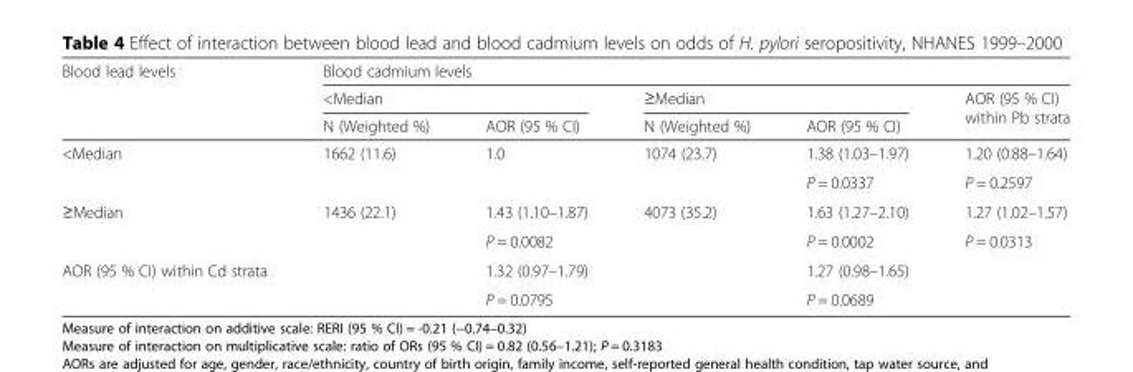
<table><thead><tr><td rowspan="3">Blood lead levels</td><td colspan="5">Blood cadmium levels</td></tr><tr><td colspan="2">&lt;Median</td><td colspan="2">≥Median</td><td rowspan="2">AOR (95 % CI) within Pb strata</td></tr><tr><td>N (Weighted %)</td><td>AOR (95 % CI)</td><td>N (Weighted %)</td><td>AOR (95 % CI)</td></tr></thead><tbody><tr><td rowspan="2">&lt;Median</td><td rowspan="2">1662 (11.6)</td><td rowspan="2">1.0</td><td rowspan="2">1074 (23.7)</td><td>1.38 (1.03–1.97)</td><td>1.20 (0.88–1.64)</td></tr><tr><td>P = 0.0337</td><td>P = 0.2597</td></tr><tr><td rowspan="2">≥Median</td><td rowspan="2">1436 (22.1)</td><td>1.43 (1.10–1.87)</td><td rowspan="2">4073 (35.2)</td><td>1.63 (1.27–2.10)</td><td>1.27 (1.02–1.57)</td></tr><tr><td>P = 0.0082</td><td>P = 0.0002</td><td>P = 0.0313</td></tr><tr><td rowspan="2">AOR (95 % CI) within Cd strata</td><td rowspan="2"></td><td>1.32 (0.97–1.79)</td><td rowspan="2"></td><td>1.27 (0.98–1.65)</td><td rowspan="2"></td></tr><tr><td>P = 0.0795</td><td>P = 0.0689</td></tr></tbody></table>